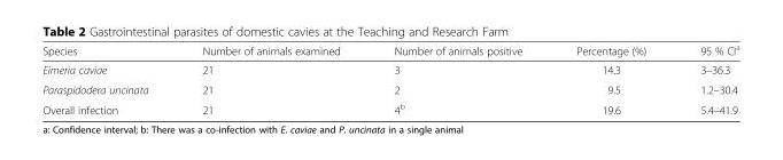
<table><thead><tr><td>Species</td><td>Number of animals examined</td><td>Number of animals positive</td><td>Percentage (%)</td><td>95 % CI<sup>a</sup></td></tr></thead><tbody><tr><td>Eimeria caviae</td><td>21</td><td>3</td><td>14.3</td><td>3–36.3</td></tr><tr><td>Paraspidodera uncinata</td><td>21</td><td>2</td><td>9.5</td><td>1.2–30.4</td></tr><tr><td>Overall infection</td><td>21</td><td>4<sup>b</sup></td><td>19.6</td><td>5.4–41.9</td></tr></tbody></table>